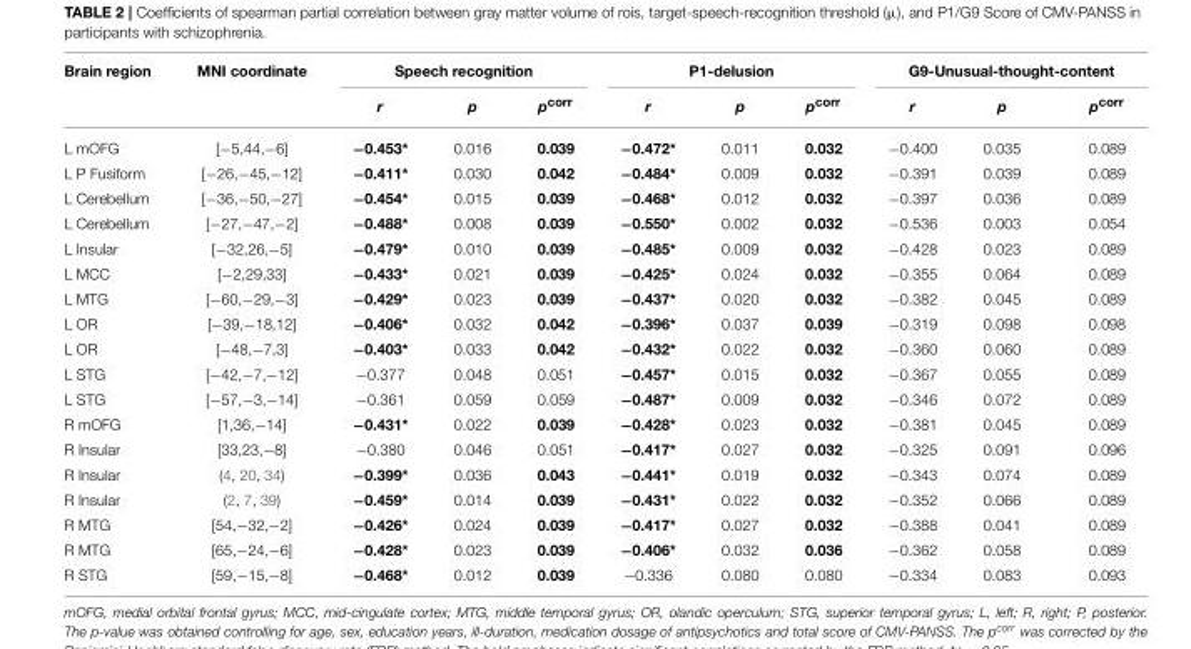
<table><thead><tr><td rowspan="2">Brain region</td><td rowspan="2">MNI coordinate</td><td colspan="3">Speech recognition</td><td colspan="3">P1-delusion</td><td colspan="3">G9-Unusual-thought-content</td></tr><tr><td>r</td><td>p</td><td>p<sup>corr</sup></td><td>r</td><td>p</td><td>p<sup>corr</sup></td><td>r</td><td>p</td><td>p<sup>corr</sup></td></tr></thead><tbody><tr><td>L mOFG</td><td>[−5,44,−6]</td><td>−0.453*</td><td>0.016</td><td>0.039</td><td>−0.472*</td><td>0.011</td><td>0.032</td><td>−0.400</td><td>0.035</td><td>0.089</td></tr><tr><td>L P Fusiform</td><td>[−26,−45,−12]</td><td>−0.411*</td><td>0.030</td><td>0.042</td><td>−0.484*</td><td>0.009</td><td>0.032</td><td>−0.391</td><td>0.039</td><td>0.089</td></tr><tr><td>L Cerebellum</td><td>[−36,−50,−27]</td><td>−0.454*</td><td>0.015</td><td>0.039</td><td>−0.468*</td><td>0.012</td><td>0.032</td><td>−0.397</td><td>0.036</td><td>0.089</td></tr><tr><td>L Cerebellum</td><td>[−27,−47,−2]</td><td>−0.488*</td><td>0.008</td><td>0.039</td><td>−0.550*</td><td>0.002</td><td>0.032</td><td>−0.536</td><td>0.003</td><td>0.054</td></tr><tr><td>L Insular</td><td>[−32,26,−5]</td><td>−0.479*</td><td>0.010</td><td>0.039</td><td>−0.485*</td><td>0.009</td><td>0.032</td><td>−0.428</td><td>0.023</td><td>0.089</td></tr><tr><td>L MCC</td><td>[−2,29,33]</td><td>−0.433*</td><td>0.021</td><td>0.039</td><td>−0.425*</td><td>0.024</td><td>0.032</td><td>−0.355</td><td>0.064</td><td>0.089</td></tr><tr><td>L MTG</td><td>[−60,−29,−3]</td><td>−0.429*</td><td>0.023</td><td>0.039</td><td>−0.437*</td><td>0.020</td><td>0.032</td><td>−0.382</td><td>0.045</td><td>0.089</td></tr><tr><td>L OR</td><td>[−39,−18,12]</td><td>−0.406*</td><td>0.032</td><td>0.042</td><td>−0.396*</td><td>0.037</td><td>0.039</td><td>−0.319</td><td>0.098</td><td>0.098</td></tr><tr><td>L OR</td><td>[−48,−7,3]</td><td>−0.403*</td><td>0.033</td><td>0.042</td><td>−0.432*</td><td>0.022</td><td>0.032</td><td>−0.360</td><td>0.060</td><td>0.089</td></tr><tr><td>L STG</td><td>[−42,−7,−12]</td><td>−0.377</td><td>0.048</td><td>0.051</td><td>−0.457*</td><td>0.015</td><td>0.032</td><td>−0.367</td><td>0.055</td><td>0.089</td></tr><tr><td>L STG</td><td>[−57,−3,−14]</td><td>−0.361</td><td>0.059</td><td>0.059</td><td>−0.487*</td><td>0.009</td><td>0.032</td><td>−0.346</td><td>0.072</td><td>0.089</td></tr><tr><td>R mOFG</td><td>[1,36,−14]</td><td>−0.431*</td><td>0.022</td><td>0.039</td><td>−0.428*</td><td>0.023</td><td>0.032</td><td>−0.381</td><td>0.045</td><td>0.089</td></tr><tr><td>R Insular</td><td>[33,23,−8]</td><td>−0.380</td><td>0.046</td><td>0.051</td><td>−0.417*</td><td>0.027</td><td>0.032</td><td>−0.325</td><td>0.091</td><td>0.096</td></tr><tr><td>R Insular</td><td>(4, 20, 34)</td><td>−0.399*</td><td>0.036</td><td>0.043</td><td>−0.441*</td><td>0.019</td><td>0.032</td><td>−0.343</td><td>0.074</td><td>0.089</td></tr><tr><td>R Insular</td><td>(2, 7, 39)</td><td>−0.459*</td><td>0.014</td><td>0.039</td><td>−0.431*</td><td>0.022</td><td>0.032</td><td>−0.352</td><td>0.066</td><td>0.089</td></tr><tr><td>R MTG</td><td>[54,−32,−2]</td><td>−0.426*</td><td>0.024</td><td>0.039</td><td>−0.417*</td><td>0.027</td><td>0.032</td><td>−0.388</td><td>0.041</td><td>0.089</td></tr><tr><td>R MTG</td><td>[65,−24,−6]</td><td>−0.428*</td><td>0.023</td><td>0.039</td><td>−0.406*</td><td>0.032</td><td>0.036</td><td>−0.362</td><td>0.058</td><td>0.089</td></tr><tr><td>R STG</td><td>[59,−15,−8]</td><td>−0.468*</td><td>0.012</td><td>0.039</td><td>−0.336</td><td>0.080</td><td>0.080</td><td>−0.334</td><td>0.083</td><td>0.093</td></tr></tbody></table>